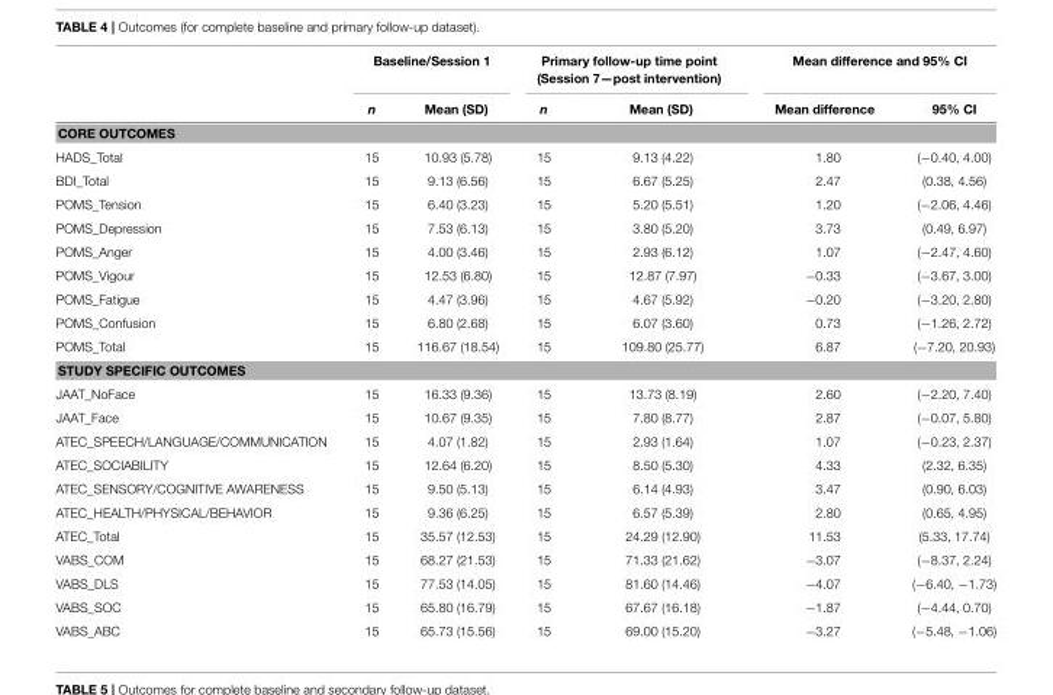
<table><thead><tr><td rowspan="2"></td><td colspan="2">Baseline/Session 1</td><td colspan="2">Primary follow-up time point (Session 7—post intervention)</td><td colspan="2">Mean difference and 95% CI</td></tr><tr><td>n</td><td>Mean (SD)</td><td>n</td><td>Mean (SD)</td><td>Mean difference</td><td>95% CI</td></tr></thead><tbody><tr><td colspan="7">CORE OUTCOMES</td></tr><tr><td>HADS_Total</td><td>15</td><td>10.93 (5.78)</td><td>15</td><td>9.13 (4.22)</td><td>1.80</td><td>(−0.40, 4.00)</td></tr><tr><td>BDI_Total</td><td>15</td><td>9.13 (6.56)</td><td>15</td><td>6.67 (5.25)</td><td>2.47</td><td>(0.38, 4.56)</td></tr><tr><td>POMS_Tension</td><td>15</td><td>6.40 (3.23)</td><td>15</td><td>5.20 (5.51)</td><td>1.20</td><td>(−2.06, 4.46)</td></tr><tr><td>POMS_Depression</td><td>15</td><td>7.53 (6.13)</td><td>15</td><td>3.80 (5.20)</td><td>3.73</td><td>(0.49, 6.97)</td></tr><tr><td>POMS_Anger</td><td>15</td><td>4.00 (3.46)</td><td>15</td><td>2.93 (6.12)</td><td>1.07</td><td>(−2.47, 4.60)</td></tr><tr><td>POMS_Vigour</td><td>15</td><td>12.53 (6.80)</td><td>15</td><td>12.87 (7.97)</td><td>−0.33</td><td>(−3.67, 3.00)</td></tr><tr><td>POMS_Fatigue</td><td>15</td><td>4.47 (3.96)</td><td>15</td><td>4.67 (5.92)</td><td>−0.20</td><td>(−3.20, 2.80)</td></tr><tr><td>POMS_Confusion</td><td>15</td><td>6.80 (2.68)</td><td>15</td><td>6.07 (3.60)</td><td>0.73</td><td>(−1.26, 2.72)</td></tr><tr><td>POMS_Total</td><td>15</td><td>116.67 (18.54)</td><td>15</td><td>109.80 (25.77)</td><td>6.87</td><td>(−7.20, 20.93)</td></tr><tr><td colspan="7">STUDY SPECIFIC OUTCOMES</td></tr><tr><td>JAAT_NoFace</td><td>15</td><td>16.33 (9.36)</td><td>15</td><td>13.73 (8.19)</td><td>2.60</td><td>(−2.20, 7.40)</td></tr><tr><td>JAAT_Face</td><td>15</td><td>10.67 (9.35)</td><td>15</td><td>7.80 (8.77)</td><td>2.87</td><td>(−0.07, 5.80)</td></tr><tr><td>ATEC_SPEECH/LANGUAGE/COMMUNICATION</td><td>15</td><td>4.07 (1.82)</td><td>15</td><td>2.93 (1.64)</td><td>1.07</td><td>(−0.23, 2.37)</td></tr><tr><td>ATEC_SOCIABILITY</td><td>15</td><td>12.64 (6.20)</td><td>15</td><td>8.50 (5.30)</td><td>4.33</td><td>(2.32, 6.35)</td></tr><tr><td>ATEC_SENSORY/COGNITIVE AWARENESS</td><td>15</td><td>9.50 (5.13)</td><td>15</td><td>6.14 (4.93)</td><td>3.47</td><td>(0.90, 6.03)</td></tr><tr><td>ATEC_HEALTH/PHYSICAL/BEHAVIOR</td><td>15</td><td>9.36 (6.25)</td><td>15</td><td>6.57 (5.39)</td><td>2.80</td><td>(0.65, 4.95)</td></tr><tr><td>ATEC_Total</td><td>15</td><td>35.57 (12.53)</td><td>15</td><td>24.29 (12.90)</td><td>11.53</td><td>(5.33, 17.74)</td></tr><tr><td>VABS_COM</td><td>15</td><td>68.27 (21.53)</td><td>15</td><td>71.33 (21.62)</td><td>−3.07</td><td>(−8.37, 2.24)</td></tr><tr><td>VABS_DLS</td><td>15</td><td>77.53 (14.05)</td><td>15</td><td>81.60 (14.46)</td><td>−4.07</td><td>(−6.40, −1.73)</td></tr><tr><td>VABS_SOC</td><td>15</td><td>65.80 (16.79)</td><td>15</td><td>67.67 (16.18)</td><td>−1.87</td><td>(−4.44, 0.70)</td></tr><tr><td>VABS_ABC</td><td>15</td><td>65.73 (15.56)</td><td>15</td><td>69.00 (15.20)</td><td>−3.27</td><td>(−5.48, −1.06)</td></tr></tbody></table>